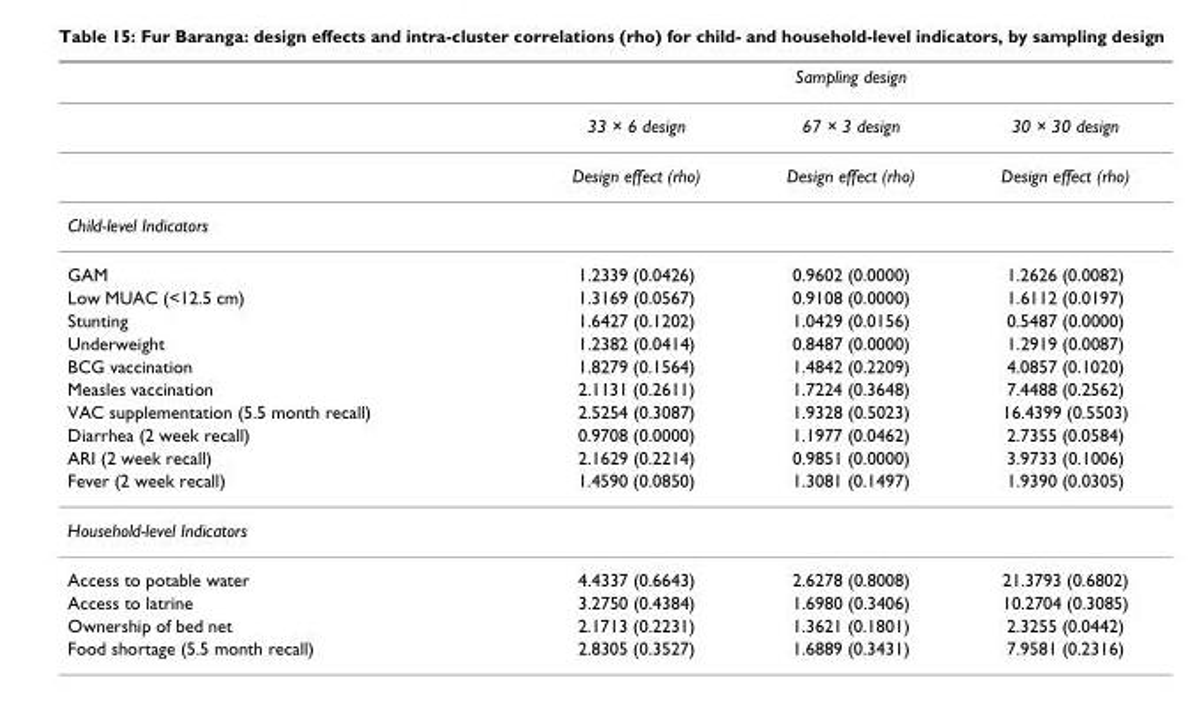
<table><thead><tr><td rowspan="2"></td><td colspan="3">Sampling design</td></tr><tr><td>33 × 6 design</td><td>67 × 3 design</td><td>30 × 30 design</td></tr></thead><tbody><tr><td></td><td>Design effect (rho)</td><td>Design effect (rho)</td><td>Design effect (rho)</td></tr><tr><td colspan="4">Child-level Indicators</td></tr><tr><td>GAM</td><td>1.2339 (0.0426)</td><td>0.9602 (0.0000)</td><td>1.2626 (0.0082)</td></tr><tr><td>Low MUAC (&lt;12.5 cm)</td><td>1.3169 (0.0567)</td><td>0.9108 (0.0000)</td><td>1.6112 (0.0197)</td></tr><tr><td>Stunting</td><td>1.6427 (0.1202)</td><td>1.0429 (0.0156)</td><td>0.5487 (0.0000)</td></tr><tr><td>Underweight</td><td>1.2382 (0.0414)</td><td>0.8487 (0.0000)</td><td>1.2919 (0.0087)</td></tr><tr><td>BCG vaccination</td><td>1.8279 (0.1564)</td><td>1.4842 (0.2209)</td><td>4.0857 (0.1020)</td></tr><tr><td>Measles vaccination</td><td>2.1131 (0.2611)</td><td>1.7224 (0.3648)</td><td>7.4488 (0.2562)</td></tr><tr><td>VAC supplementation (5.5 month recall)</td><td>2.5254 (0.3087)</td><td>1.9328 (0.5023)</td><td>16.4399 (0.5503)</td></tr><tr><td>Diarrhea (2 week recall)</td><td>0.9708 (0.0000)</td><td>1.1977 (0.0462)</td><td>2.7355 (0.0584)</td></tr><tr><td>ARI (2 week recall)</td><td>2.1629 (0.2214)</td><td>0.9851 (0.0000)</td><td>3.9733 (0.1006)</td></tr><tr><td>Fever (2 week recall)</td><td>1.4590 (0.0850)</td><td>1.3081 (0.1497)</td><td>1.9390 (0.0305)</td></tr><tr><td colspan="4">Household-level Indicators</td></tr><tr><td>Access to potable water</td><td>4.4337 (0.6643)</td><td>2.6278 (0.8008)</td><td>21.3793 (0.6802)</td></tr><tr><td>Access to latrine</td><td>3.2750 (0.4384)</td><td>1.6980 (0.3406)</td><td>10.2704 (0.3085)</td></tr><tr><td>Ownership of bed net</td><td>2.1713 (0.2231)</td><td>1.3621 (0.1801)</td><td>2.3255 (0.0442)</td></tr><tr><td>Food shortage (5.5 month recall)</td><td>2.8305 (0.3527)</td><td>1.6889 (0.3431)</td><td>7.9581 (0.2316)</td></tr></tbody></table>